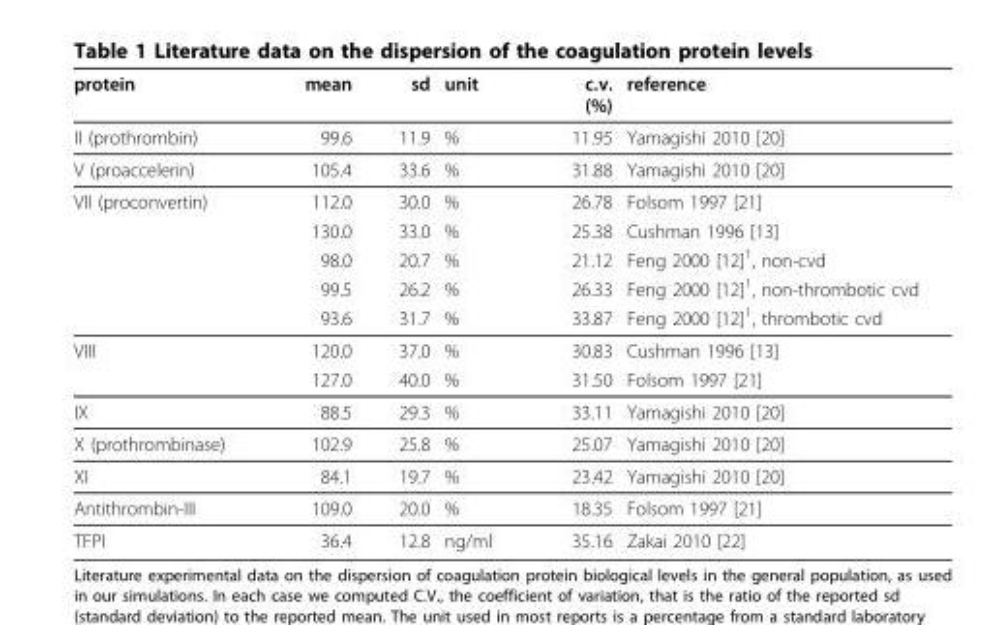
<table><thead><tr><td>protein</td><td>mean</td><td>sd</td><td>unit</td><td>c.v. (%)</td><td>reference</td></tr></thead><tbody><tr><td>II (prothrombin)</td><td>99.6</td><td>11.9</td><td>%</td><td>11.95</td><td>Yamagishi 2010 [20]</td></tr><tr><td>V (proaccelerin)</td><td>105.4</td><td>33.6</td><td>%</td><td>31.88</td><td>Yamagishi 2010 [20]</td></tr><tr><td rowspan="5">VII (proconvertin)</td><td>112.0</td><td>30.0</td><td>%</td><td>26.78</td><td>Folsom 1997 [21]</td></tr><tr><td>130.0</td><td>33.0</td><td>%</td><td>25.38</td><td>Cushman 1996 [13]</td></tr><tr><td>98.0</td><td>20.7</td><td>%</td><td>21.12</td><td>Feng 2000 [12]<sup>1</sup>, non-cvd</td></tr><tr><td>99.5</td><td>26.2</td><td>%</td><td>26.33</td><td>Feng 2000 [12]<sup>1</sup>, non-thrombotic cvd</td></tr><tr><td>93.6</td><td>31.7</td><td>%</td><td>33.87</td><td>Feng 2000 [12]<sup>1</sup>, thrombotic cvd</td></tr><tr><td rowspan="2">VIII</td><td>120.0</td><td>37.0</td><td>%</td><td>30.83</td><td>Cushman 1996 [13]</td></tr><tr><td>127.0</td><td>40.0</td><td>%</td><td>31.50</td><td>Folsom 1997 [21]</td></tr><tr><td>IX</td><td>88.5</td><td>29.3</td><td>%</td><td>33.11</td><td>Yamagishi 2010 [20]</td></tr><tr><td>X (prothrombinase)</td><td>102.9</td><td>25.8</td><td>%</td><td>25.07</td><td>Yamagishi 2010 [20]</td></tr><tr><td>XI</td><td>84.1</td><td>19.7</td><td>%</td><td>23.42</td><td>Yamagishi 2010 [20]</td></tr><tr><td>Antithrombin-III</td><td>109.0</td><td>20.0</td><td>%</td><td>18.35</td><td>Folsom 1997 [21]</td></tr><tr><td>TFPI</td><td>36.4</td><td>12.8</td><td>ng/ml</td><td>35.16</td><td>Zakai 2010 [22]</td></tr></tbody></table>